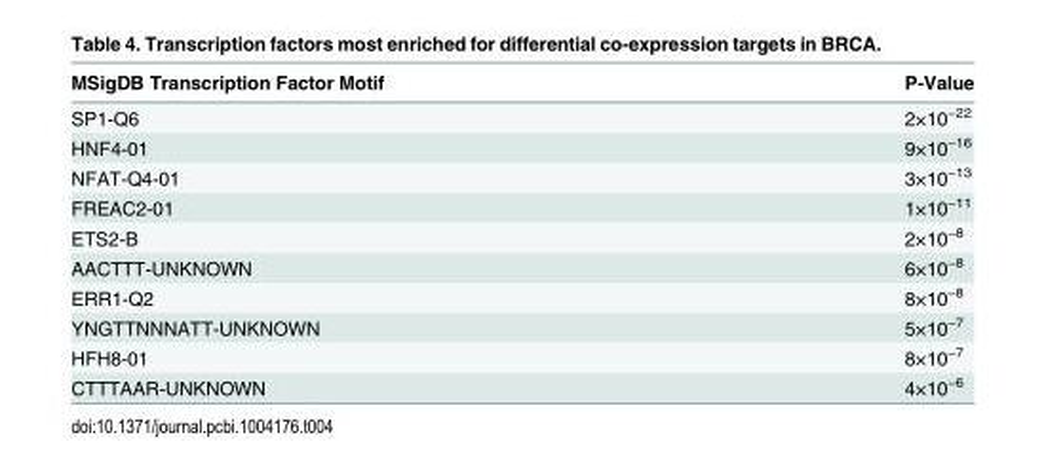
<table><thead><tr><td>MSigDB Transcription Factor Motif</td><td>P-Value</td></tr></thead><tbody><tr><td>SP1-Q6</td><td>2×10<sup>−22</sup></td></tr><tr><td>HNF4-01</td><td>9×10<sup>−16</sup></td></tr><tr><td>NFAT-Q4-01</td><td>3×10<sup>−13</sup></td></tr><tr><td>FREAC2-01</td><td>1×10<sup>−11</sup></td></tr><tr><td>ETS2-B</td><td>2×10<sup>−8</sup></td></tr><tr><td>AACTTT-UNKNOWN</td><td>6×10<sup>−8</sup></td></tr><tr><td>ERR1-Q2</td><td>8×10<sup>−8</sup></td></tr><tr><td>YNGTTNNNATT-UNKNOWN</td><td>5×10<sup>−7</sup></td></tr><tr><td>HFH8-01</td><td>8×10<sup>−7</sup></td></tr><tr><td>CTTTAAR-UNKNOWN</td><td>4×10<sup>−6</sup></td></tr></tbody></table>